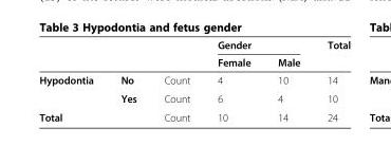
<table><thead><tr><td rowspan="2"></td><td rowspan="2"></td><td rowspan="2"></td><td colspan="2">Gender</td><td rowspan="2">Total</td></tr><tr><td>Female</td><td>Male</td></tr></thead><tbody><tr><td rowspan="2">Hypodontia</td><td>No</td><td>Count</td><td>4</td><td>10</td><td>14</td></tr><tr><td>Yes</td><td>Count</td><td>6</td><td>4</td><td>10</td></tr><tr><td colspan="2">Total</td><td>Count</td><td>10</td><td>14</td><td>24</td></tr></tbody></table>